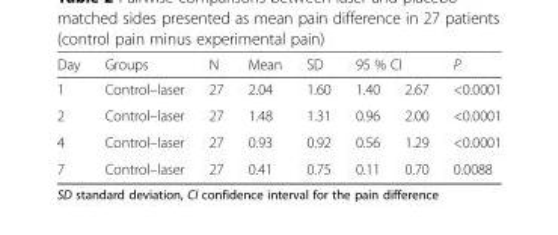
<table><thead><tr><td rowspan="2">Day 1</td><td rowspan="2">Groups Control–laser</td><td rowspan="2">N 27</td><td rowspan="2">Mean 2.04</td><td rowspan="2">SD 1.60</td><td colspan="2">95 % CI</td><td rowspan="2">P &lt;0.0001</td></tr><tr><td>1.40</td><td>2.67</td></tr></thead><tbody><tr><td>2</td><td>Control–laser</td><td>27</td><td>1.48</td><td>1.31</td><td>0.96</td><td>2.00</td><td>&lt;0.0001</td></tr><tr><td>4</td><td>Control–laser</td><td>27</td><td>0.93</td><td>0.92</td><td>0.56</td><td>1.29</td><td>&lt;0.0001</td></tr><tr><td>7</td><td>Control–laser</td><td>27</td><td>0.41</td><td>0.75</td><td>0.11</td><td>0.70</td><td>0.0088</td></tr></tbody></table>